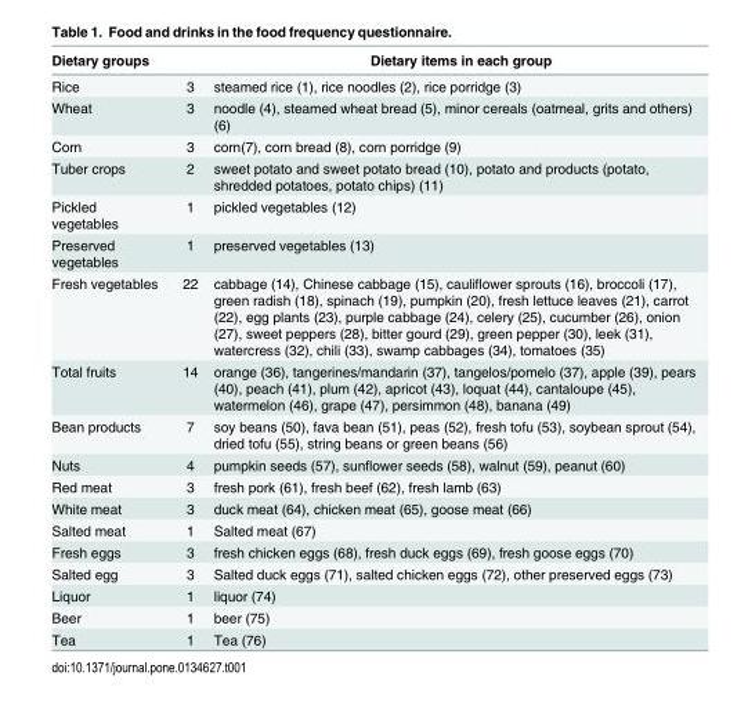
<table><thead><tr><td>Dietary groups</td><td></td><td>Dietary items in each group</td></tr></thead><tbody><tr><td>Rice</td><td>3</td><td>steamed rice (1), rice noodles (2), rice porridge (3)</td></tr><tr><td>Wheat</td><td>3</td><td>noodle (4), steamed wheat bread (5), minor cereals (oatmeal, grits and others) (6)</td></tr><tr><td>Corn</td><td>3</td><td>corn(7), corn bread (8), corn porridge (9)</td></tr><tr><td>Tuber crops</td><td>2</td><td>sweet potato and sweet potato bread (10), potato and products (potato, shredded potatoes, potato chips) (11)</td></tr><tr><td>Pickled vegetables</td><td>1</td><td>pickled vegetables (12)</td></tr><tr><td>Preserved vegetables</td><td>1</td><td>preserved vegetables (13)</td></tr><tr><td>Fresh vegetables</td><td>22</td><td>cabbage (14), Chinese cabbage (15), cauliflower sprouts (16), broccoli (17), green radish (18), spinach (19), pumpkin (20), fresh lettuce leaves (21), carrot (22), egg plants (23), purple cabbage (24), celery (25), cucumber (26), onion (27), sweet peppers (28), bitter gourd (29), green pepper (30), leek (31), watercress (32), chili (33), swamp cabbages (34), tomatoes (35)</td></tr><tr><td>Total fruits</td><td>14</td><td>orange (36), tangerines/mandarin (37), tangelos/pomelo (37), apple (39), pears (40), peach (41), plum (42), apricot (43), loquat (44), cantaloupe (45), watermelon (46), grape (47), persimmon (48), banana (49)</td></tr><tr><td>Bean products</td><td>7</td><td>soy beans (50), fava bean (51), peas (52), fresh tofu (53), soybean sprout (54), dried tofu (55), string beans or green beans (56)</td></tr><tr><td>Nuts</td><td>4</td><td>pumpkin seeds (57), sunflower seeds (58), walnut (59), peanut (60)</td></tr><tr><td>Red meat</td><td>3</td><td>fresh pork (61), fresh beef (62), fresh lamb (63)</td></tr><tr><td>White meat</td><td>3</td><td>duck meat (64), chicken meat (65), goose meat (66)</td></tr><tr><td>Salted meat</td><td>1</td><td>Salted meat (67)</td></tr><tr><td>Fresh eggs</td><td>3</td><td>fresh chicken eggs (68), fresh duck eggs (69), fresh goose eggs (70)</td></tr><tr><td>Salted egg</td><td>3</td><td>Salted duck eggs (71), salted chicken eggs (72), other preserved eggs (73)</td></tr><tr><td>Liquor</td><td>1</td><td>liquor (74)</td></tr><tr><td>Beer</td><td>1</td><td>beer (75)</td></tr><tr><td>Tea</td><td>1</td><td>Tea (76)</td></tr></tbody></table>